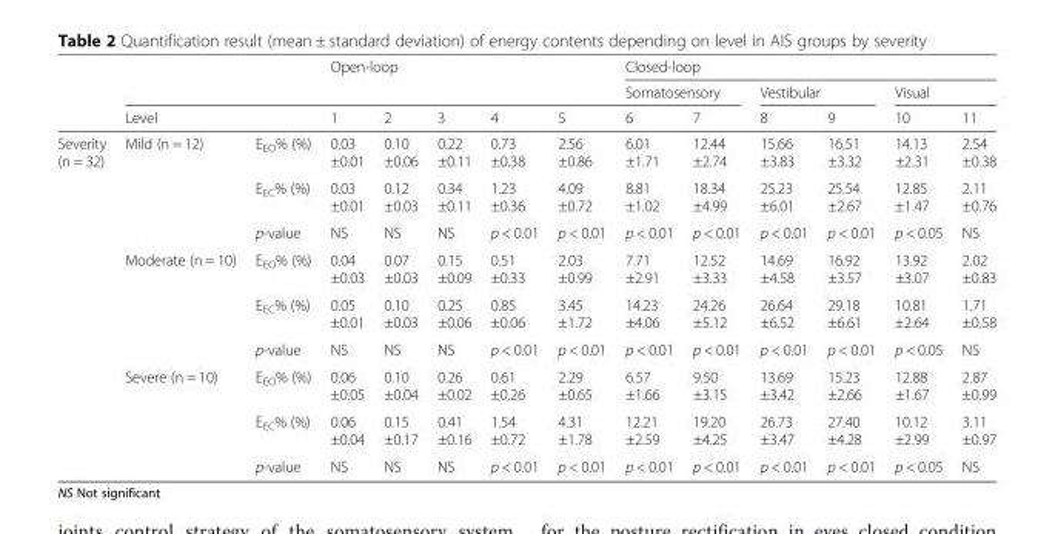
<table><thead><tr><td rowspan="3"></td><td rowspan="2"></td><td rowspan="2"></td><td rowspan="2" colspan="5">Open-loop</td><td colspan="6">Closed-loop</td></tr><tr><td colspan="2">Somatosensory</td><td colspan="2">Vestibular</td><td colspan="2">Visual</td></tr><tr><td colspan="2">Level</td><td>1</td><td>2</td><td>3</td><td>4</td><td>5</td><td>6</td><td>7</td><td>8</td><td>9</td><td>10</td><td>11</td></tr></thead><tbody><tr><td rowspan="9">Severity (n = 32)</td><td rowspan="3">Mild (n = 12)</td><td>E<sub>EO</sub>% (%)</td><td>0.03 ±0.01</td><td>0.10 ±0.06</td><td>0.22 ±0.11</td><td>0.73 ±0.38</td><td>2.56 ±0.86</td><td>6.01 ±1.71</td><td>12.44 ±2.74</td><td>15.66 ±3.83</td><td>16.51 ±3.32</td><td>14.13 ±2.31</td><td>2.54 ±0.38</td></tr><tr><td>E<sub>EC</sub>% (%)</td><td>0.03 ±0.01</td><td>0.12 ±0.03</td><td>0.34 ±0.11</td><td>1.23 ±0.36</td><td>4.09 ±0.72</td><td>8.81 ±1.02</td><td>18.34 ±4.99</td><td>25.23 ±6.01</td><td>25.54 ±2.67</td><td>12.85 ±1.47</td><td>2.11 ±0.76</td></tr><tr><td>p-value</td><td>NS</td><td>NS</td><td>NS</td><td>p &lt; 0.01</td><td>p &lt; 0.01</td><td>p &lt; 0.01</td><td>p &lt; 0.01</td><td>p &lt; 0.01</td><td>p &lt; 0.01</td><td>p &lt; 0.05</td><td>NS</td></tr><tr><td rowspan="3">Moderate (n = 10)</td><td>E<sub>EO</sub>% (%)</td><td>0.04 ±0.03</td><td>0.07 ±0.03</td><td>0.15 ±0.09</td><td>0.51 ±0.33</td><td>2.03 ±0.99</td><td>7.71 ±2.91</td><td>12.52 ±3.33</td><td>14.69 ±4.58</td><td>16.92 ±3.57</td><td>13.92 ±3.07</td><td>2.02 ±0.83</td></tr><tr><td>E<sub>EC</sub>% (%)</td><td>0.05 ±0.01</td><td>0.10 ±0.03</td><td>0.25 ±0.06</td><td>0.85 ±0.06</td><td>3.45 ±1.72</td><td>14.23 ±4.06</td><td>24.26 ±5.12</td><td>26.64 ±6.52</td><td>29.18 ±6.61</td><td>10.81 ±2.64</td><td>1.71 ±0.58</td></tr><tr><td>p-value</td><td>NS</td><td>NS</td><td>NS</td><td>p &lt; 0.01</td><td>p &lt; 0.01</td><td>p &lt; 0.01</td><td>p &lt; 0.01</td><td>p &lt; 0.01</td><td>p &lt; 0.01</td><td>p &lt; 0.05</td><td>NS</td></tr><tr><td rowspan="3">Severe (n = 10)</td><td>E<sub>EO</sub>% (%)</td><td>0.06 ±0.05</td><td>0.10 ±0.04</td><td>0.26 ±0.02</td><td>0.61 ±0.26</td><td>2.29 ±0.65</td><td>6.57 ±1.66</td><td>9.50 ±3.15</td><td>13.69 ±3.42</td><td>15.23 ±2.66</td><td>12.88 ±1.67</td><td>2.87 ±0.99</td></tr><tr><td>E<sub>EC</sub>% (%)</td><td>0.06 ±0.04</td><td>0.15 ±0.17</td><td>0.41 ±0.16</td><td>1.54 ±0.72</td><td>4.31 ±1.78</td><td>12.21 ±2.59</td><td>19.20 ±4.25</td><td>26.73 ±3.47</td><td>27.40 ±4.28</td><td>10.12 ±2.99</td><td>3.11 ±0.97</td></tr><tr><td>p-value</td><td>NS</td><td>NS</td><td>NS</td><td>p &lt; 0.01</td><td>p &lt; 0.01</td><td>p &lt; 0.01</td><td>p &lt; 0.01</td><td>p &lt; 0.01</td><td>p &lt; 0.01</td><td>p &lt; 0.05</td><td>NS</td></tr></tbody></table>